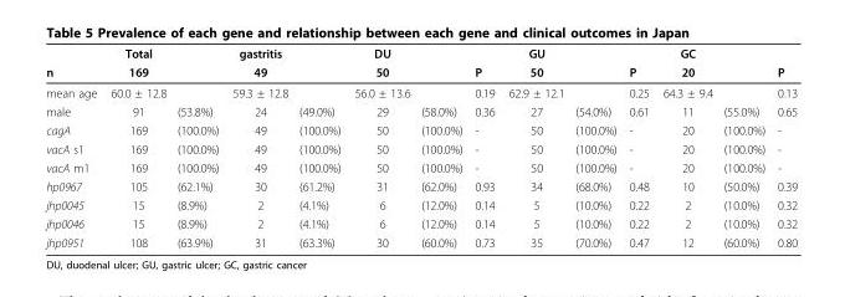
<table><thead><tr><td rowspan="2">n</td><td rowspan="2">Total 169</td><td rowspan="2"></td><td rowspan="2">gastritis 49</td><td rowspan="2"></td><td rowspan="2">DU 50</td><td rowspan="2"></td><td rowspan="2">P</td><td rowspan="2">GU 50</td><td rowspan="2"></td><td rowspan="2">P</td><td rowspan="2">GC 20</td><td rowspan="2"></td><td rowspan="2">P</td></tr><tr></tr></thead><tbody><tr><td>mean age</td><td>60.0 ± 12.8</td><td></td><td>59.3 ± 12.8</td><td></td><td>56.0 ± 13.6</td><td></td><td>0.19</td><td>62.9 ± 12.1</td><td></td><td>0.25</td><td>64.3 ± 9.4</td><td></td><td>0.13</td></tr><tr><td>male</td><td>91</td><td>(53.8%)</td><td>24</td><td>(49.0%)</td><td>29</td><td>(58.0%)</td><td>0.36</td><td>27</td><td>(54.0%)</td><td>0.61</td><td>11</td><td>(55.0%)</td><td>0.65</td></tr><tr><td>cagA</td><td>169</td><td>(100.0%)</td><td>49</td><td>(100.0%)</td><td>50</td><td>(100.0%)</td><td>-</td><td>50</td><td>(100.0%)</td><td>-</td><td>20</td><td>(100.0%)</td><td>-</td></tr><tr><td>vacA s1</td><td>169</td><td>(100.0%)</td><td>49</td><td>(100.0%)</td><td>50</td><td>(100.0%)</td><td>-</td><td>50</td><td>(100.0%)</td><td>-</td><td>20</td><td>(100.0%)</td><td>-</td></tr><tr><td>vacA m1</td><td>169</td><td>(100.0%)</td><td>49</td><td>(100.0%)</td><td>50</td><td>(100.0%)</td><td>-</td><td>50</td><td>(100.0%)</td><td>-</td><td>20</td><td>(100.0%)</td><td>-</td></tr><tr><td>hp0967</td><td>105</td><td>(62.1%)</td><td>30</td><td>(61.2%)</td><td>31</td><td>(62.0%)</td><td>0.93</td><td>34</td><td>(68.0%)</td><td>0.48</td><td>10</td><td>(50.0%)</td><td>0.39</td></tr><tr><td>jhp0045</td><td>15</td><td>(8.9%)</td><td>2</td><td>(4.1%)</td><td>6</td><td>(12.0%)</td><td>0.14</td><td>5</td><td>(10.0%)</td><td>0.22</td><td>2</td><td>(10.0%)</td><td>0.32</td></tr><tr><td>jhp0046</td><td>15</td><td>(8.9%)</td><td>2</td><td>(4.1%)</td><td>6</td><td>(12.0%)</td><td>0.14</td><td>5</td><td>(10.0%)</td><td>0.22</td><td>2</td><td>(10.0%)</td><td>0.32</td></tr><tr><td>jhp0951</td><td>108</td><td>(63.9%)</td><td>31</td><td>(63.3%)</td><td>30</td><td>(60.0%)</td><td>0.73</td><td>35</td><td>(70.0%)</td><td>0.47</td><td>12</td><td>(60.0%)</td><td>0.80</td></tr></tbody></table>